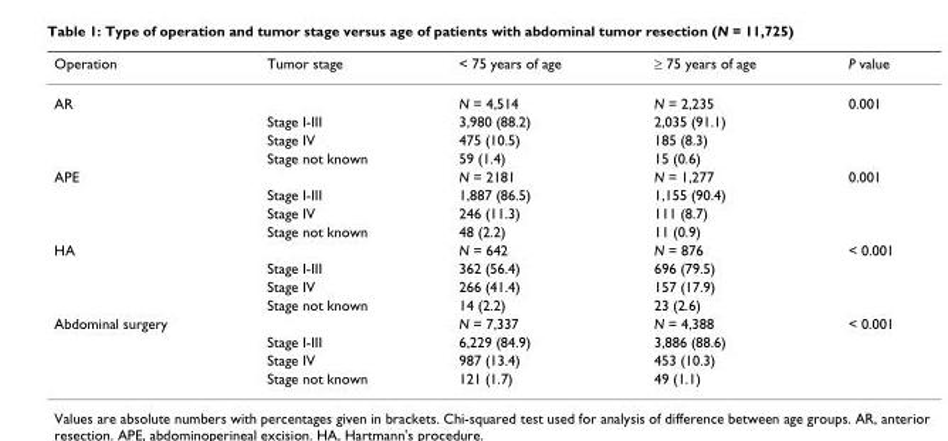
<table><thead><tr><td>Operation</td><td>Tumor stage</td><td>&lt; 75 years of age</td><td>≥ 75 years of age</td><td>P value</td></tr></thead><tbody><tr><td rowspan="4">AR</td><td></td><td>N = 4,514</td><td>N = 2,235</td><td>0.001</td></tr><tr><td>Stage I-III</td><td>3,980 (88.2)</td><td>2,035 (91.1)</td><td></td></tr><tr><td>Stage IV</td><td>475 (10.5)</td><td>185 (8.3)</td><td></td></tr><tr><td>Stage not known</td><td>59 (1.4)</td><td>15 (0.6)</td><td></td></tr><tr><td rowspan="4">APE</td><td></td><td>N = 2181</td><td>N = 1,277</td><td>0.001</td></tr><tr><td>Stage I-III</td><td>1,887 (86.5)</td><td>1,155 (90.4)</td><td></td></tr><tr><td>Stage IV</td><td>246 (11.3)</td><td>111 (8.7)</td><td></td></tr><tr><td>Stage not known</td><td>48 (2.2)</td><td>11 (0.9)</td><td></td></tr><tr><td rowspan="4">HA</td><td></td><td>N = 642</td><td>N = 876</td><td>&lt; 0.001</td></tr><tr><td>Stage I-III</td><td>362 (56.4)</td><td>696 (79.5)</td><td></td></tr><tr><td>Stage IV</td><td>266 (41.4)</td><td>157 (17.9)</td><td></td></tr><tr><td>Stage not known</td><td>14 (2.2)</td><td>23 (2.6)</td><td></td></tr><tr><td rowspan="4">Abdominal surgery</td><td></td><td>N = 7,337</td><td>N = 4,388</td><td>&lt; 0.001</td></tr><tr><td>Stage I-III</td><td>6,229 (84.9)</td><td>3,886 (88.6)</td><td></td></tr><tr><td>Stage IV</td><td>987 (13.4)</td><td>453 (10.3)</td><td></td></tr><tr><td>Stage not known</td><td>121 (1.7)</td><td>49 (1.1)</td><td></td></tr></tbody></table>